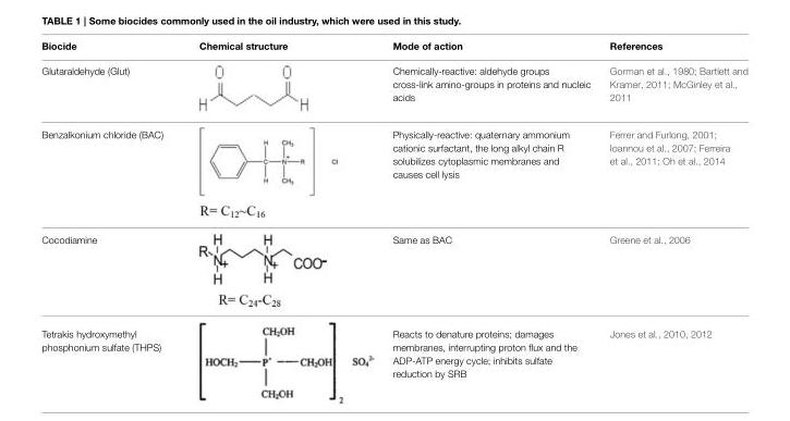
<table><thead><tr><td>Biocide</td><td>Chemical structure</td><td>Mode of action</td><td>References</td></tr></thead><tbody><tr><td>Glutaraldehyde (Glut)</td><td></td><td>Chemically-reactive: aldehyde groups cross-link amino-groups in proteins and nucleic acids</td><td>Gorman et al., 1980; Bartlett and Kramer, 2011; McGinley et al., 2011</td></tr><tr><td>Benzalkonium chloride (BAC)</td><td></td><td>Physically-reactive: quaternary ammonium cationic surfactant, the long alkyl chain R solubilizes cytoplasmic membranes and causes cell lysis</td><td>Ferrer and Furlong, 2001; Ioannou et al., 2007; Ferreira et al., 2011; Oh et al., 2014</td></tr><tr><td>Cocodiamine</td><td></td><td>Same as BAC</td><td>Greene et al., 2006</td></tr><tr><td>Tetrakis hydroxymethyl phosphonium sulfate (THPS)</td><td></td><td>Reacts to denature proteins; damages membranes, interrupting proton flux and the ADP-ATP energy cycle; inhibits sulfate reduction by SRB</td><td>Jones et al., 2010, 2012</td></tr></tbody></table>